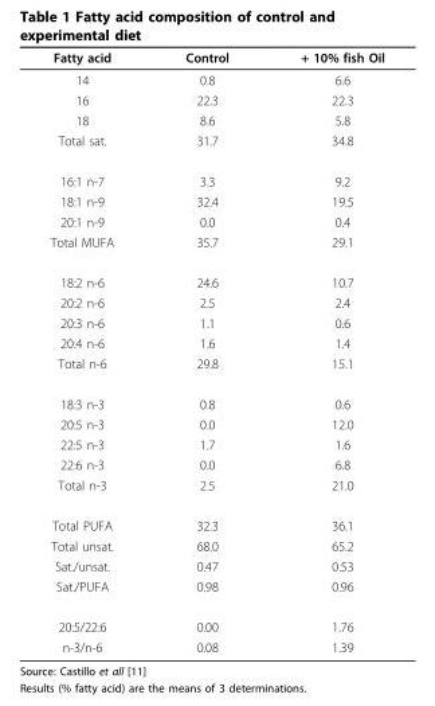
<table><thead><tr><td>Fatty acid</td><td>Control</td><td>+ 10% fish Oil</td></tr></thead><tbody><tr><td>14</td><td>0.8</td><td>6.6</td></tr><tr><td>16</td><td>22.3</td><td>22.3</td></tr><tr><td>18</td><td>8.6</td><td>5.8</td></tr><tr><td>Total sat.</td><td>31.7</td><td>34.8</td></tr><tr><td>16:1 n-7</td><td>3.3</td><td>9.2</td></tr><tr><td>18:1 n-9</td><td>32.4</td><td>19.5</td></tr><tr><td>20:1 n-9</td><td>0.0</td><td>0.4</td></tr><tr><td>Total MUFA</td><td>35.7</td><td>29.1</td></tr><tr><td>18:2 n-6</td><td>24.6</td><td>10.7</td></tr><tr><td>20:2 n-6</td><td>2.5</td><td>2.4</td></tr><tr><td>20:3 n-6</td><td>1.1</td><td>0.6</td></tr><tr><td>20:4 n-6</td><td>1.6</td><td>1.4</td></tr><tr><td>Total n-6</td><td>29.8</td><td>15.1</td></tr><tr><td>18:3 n-3</td><td>0.8</td><td>0.6</td></tr><tr><td>20:5 n-3</td><td>0.0</td><td>12.0</td></tr><tr><td>22:5 n-3</td><td>1.7</td><td>1.6</td></tr><tr><td>22:6 n-3</td><td>0.0</td><td>6.8</td></tr><tr><td>Total n-3</td><td>2.5</td><td>21.0</td></tr><tr><td>Total PUFA</td><td>32.3</td><td>36.1</td></tr><tr><td>Total unsat.</td><td>68.0</td><td>65.2</td></tr><tr><td>Sat./unsat.</td><td>0.47</td><td>0.53</td></tr><tr><td>Sat./PUFA</td><td>0.98</td><td>0.96</td></tr><tr><td>20:5/22:6</td><td>0.00</td><td>1.76</td></tr><tr><td>n-3/n-6</td><td>0.08</td><td>1.39</td></tr></tbody></table>